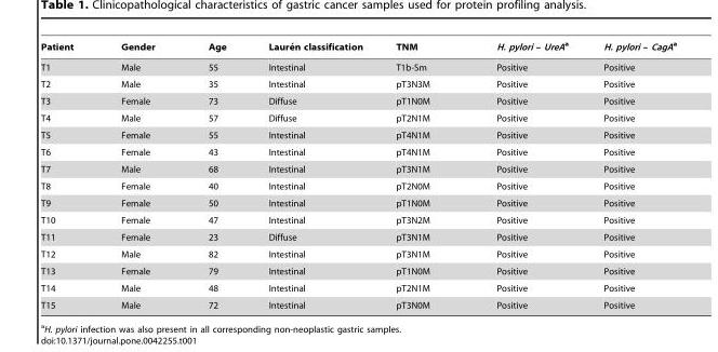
<table><thead><tr><td>Patient</td><td>Gender</td><td>Age</td><td>Laure´n classification</td><td>TNM</td><td>H. pylori – UreAa</td><td>H. pylori – CagAa</td></tr></thead><tbody><tr><td>T1</td><td>Male</td><td>55</td><td>Intestinal</td><td>T1b-Sm</td><td>Positive</td><td>Positive</td></tr><tr><td>T2</td><td>Male</td><td>35</td><td>Intestinal</td><td>pT3N3M</td><td>Positive</td><td>Positive</td></tr><tr><td>T3</td><td>Female</td><td>73</td><td>Diffuse</td><td>pT1N0M</td><td>Positive</td><td>Positive</td></tr><tr><td>T4</td><td>Male</td><td>57</td><td>Diffuse</td><td>pT2N1M</td><td>Positive</td><td>Positive</td></tr><tr><td>T5</td><td>Female</td><td>55</td><td>Intestinal</td><td>pT4N1M</td><td>Positive</td><td>Positive</td></tr><tr><td>T6</td><td>Female</td><td>43</td><td>Intestinal</td><td>pT4N1M</td><td>Positive</td><td>Positive</td></tr><tr><td>T7</td><td>Male</td><td>68</td><td>Intestinal</td><td>pT3N1M</td><td>Positive</td><td>Positive</td></tr><tr><td>T8</td><td>Female</td><td>40</td><td>Intestinal</td><td>pT2N0M</td><td>Positive</td><td>Positive</td></tr><tr><td>T9</td><td>Female</td><td>50</td><td>Intestinal</td><td>pT1N0M</td><td>Positive</td><td>Positive</td></tr><tr><td>T10</td><td>Female</td><td>47</td><td>Intestinal</td><td>pT3N2M</td><td>Positive</td><td>Positive</td></tr><tr><td>T11</td><td>Female</td><td>23</td><td>Diffuse</td><td>pT3N1M</td><td>Positive</td><td>Positive</td></tr><tr><td>T12</td><td>Male</td><td>82</td><td>Intestinal</td><td>pT3N1M</td><td>Positive</td><td>Positive</td></tr><tr><td>T13</td><td>Female</td><td>79</td><td>Intestinal</td><td>pT1N0M</td><td>Positive</td><td>Positive</td></tr><tr><td>T14</td><td>Male</td><td>48</td><td>Intestinal</td><td>pT2N1M</td><td>Positive</td><td>Positive</td></tr><tr><td>T15</td><td>Male</td><td>72</td><td>Intestinal</td><td>pT3N0M</td><td>Positive</td><td>Positive</td></tr></tbody></table>